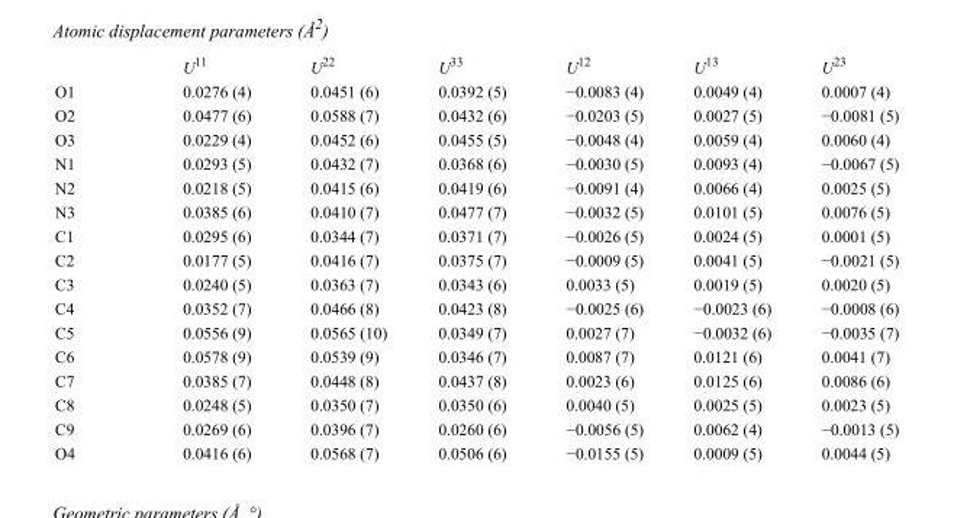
<table><thead><tr><td></td><td>U<sup>11</sup></td><td>U<sup>22</sup></td><td>U<sup>33</sup></td><td>U<sup>12</sup></td><td>U<sup>13</sup></td><td>U<sup>23</sup></td></tr></thead><tbody><tr><td>O1</td><td>0.0276 (4)</td><td>0.0451 (6)</td><td>0.0392 (5)</td><td>−0.0083 (4)</td><td>0.0049 (4)</td><td>0.0007 (4)</td></tr><tr><td>O2</td><td>0.0477 (6)</td><td>0.0588 (7)</td><td>0.0432 (6)</td><td>−0.0203 (5)</td><td>0.0027 (5)</td><td>−0.0081 (5)</td></tr><tr><td>O3</td><td>0.0229 (4)</td><td>0.0452 (6)</td><td>0.0455 (5)</td><td>−0.0048 (4)</td><td>0.0059 (4)</td><td>0.0060 (4)</td></tr><tr><td>N1</td><td>0.0293 (5)</td><td>0.0432 (7)</td><td>0.0368 (6)</td><td>−0.0030 (5)</td><td>0.0093 (4)</td><td>−0.0067 (5)</td></tr><tr><td>N2</td><td>0.0218 (5)</td><td>0.0415 (6)</td><td>0.0419 (6)</td><td>−0.0091 (4)</td><td>0.0066 (4)</td><td>0.0025 (5)</td></tr><tr><td>N3</td><td>0.0385 (6)</td><td>0.0410 (7)</td><td>0.0477 (7)</td><td>−0.0032 (5)</td><td>0.0101 (5)</td><td>0.0076 (5)</td></tr><tr><td>C1</td><td>0.0295 (6)</td><td>0.0344 (7)</td><td>0.0371 (7)</td><td>−0.0026 (5)</td><td>0.0024 (5)</td><td>0.0001 (5)</td></tr><tr><td>C2</td><td>0.0177 (5)</td><td>0.0416 (7)</td><td>0.0375 (7)</td><td>−0.0009 (5)</td><td>0.0041 (5)</td><td>−0.0021 (5)</td></tr><tr><td>C3</td><td>0.0240 (5)</td><td>0.0363 (7)</td><td>0.0343 (6)</td><td>0.0033 (5)</td><td>0.0019 (5)</td><td>0.0020 (5)</td></tr><tr><td>C4</td><td>0.0352 (7)</td><td>0.0466 (8)</td><td>0.0423 (8)</td><td>−0.0025 (6)</td><td>−0.0023 (6)</td><td>−0.0008 (6)</td></tr><tr><td>C5</td><td>0.0556 (9)</td><td>0.0565 (10)</td><td>0.0349 (7)</td><td>0.0027 (7)</td><td>−0.0032 (6)</td><td>−0.0035 (7)</td></tr><tr><td>C6</td><td>0.0578 (9)</td><td>0.0539 (9)</td><td>0.0346 (7)</td><td>0.0087 (7)</td><td>0.0121 (6)</td><td>0.0041 (7)</td></tr><tr><td>C7</td><td>0.0385 (7)</td><td>0.0448 (8)</td><td>0.0437 (8)</td><td>0.0023 (6)</td><td>0.0125 (6)</td><td>0.0086 (6)</td></tr><tr><td>C8</td><td>0.0248 (5)</td><td>0.0350 (7)</td><td>0.0350 (6)</td><td>0.0040 (5)</td><td>0.0025 (5)</td><td>0.0023 (5)</td></tr><tr><td>C9</td><td>0.0269 (6)</td><td>0.0396 (7)</td><td>0.0260 (6)</td><td>−0.0056 (5)</td><td>0.0062 (4)</td><td>−0.0013 (5)</td></tr><tr><td>O4</td><td>0.0416 (6)</td><td>0.0568 (7)</td><td>0.0506 (6)</td><td>−0.0155 (5)</td><td>0.0009 (5)</td><td>0.0044 (5)</td></tr></tbody></table>